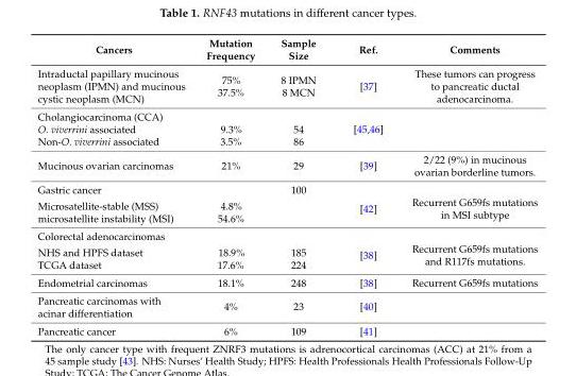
<table><thead><tr><td>Cancers</td><td>Mutation Frequency</td><td>Sample Size</td><td>Ref.</td><td>Comments</td></tr></thead><tbody><tr><td>Intraductal papillary mucinous neoplasm (IPMN) and mucinous cystic neoplasm (MCN)</td><td>75% 37.5%</td><td>8 IPMN 8 MCN</td><td>[37]</td><td>These tumors can progress to pancreatic ductal adenocarcinoma.</td></tr><tr><td>Cholangiocarcinoma (CCA) O. viverrini associated Non-O. viverrini associated</td><td>9.3% 3.5%</td><td>54 86</td><td>[45,46]</td><td></td></tr><tr><td>Mucinous ovarian carcinomas</td><td>21%</td><td>29</td><td>[39]</td><td>2/22 (9%) in mucinous ovarian borderline tumors.</td></tr><tr><td>Gastric cancer Microsatellite-stable (MSS) microsatellite instability (MSI)</td><td>4.8% 54.6%</td><td>100</td><td>[42]</td><td>Recurrent G659fs mutations in MSI subtype</td></tr><tr><td>Colorectal adenocarcinomas NHS and HPFS dataset TCGA dataset</td><td>18.9% 17.6%</td><td>185 224</td><td>[38]</td><td>Recurrent G659fs mutations and R117fs mutations.</td></tr><tr><td>Endometrial carcinomas</td><td>18.1%</td><td>248</td><td>[38]</td><td>Recurrent G659fs mutations</td></tr><tr><td>Pancreatic carcinomas with acinar differentiation</td><td>4%</td><td>23</td><td>[40]</td><td></td></tr><tr><td>Pancreatic cancer</td><td>6%</td><td>109</td><td>[41]</td><td></td></tr></tbody></table>